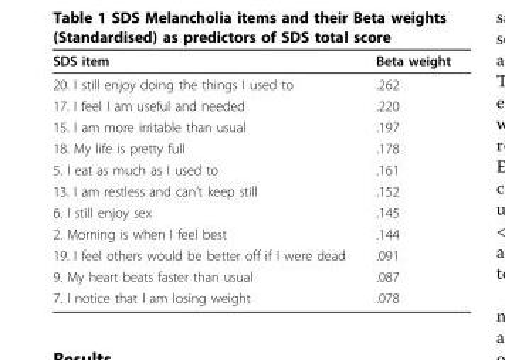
<table><thead><tr><td>SDS item</td><td>Beta weight</td></tr></thead><tbody><tr><td>20. I still enjoy doing the things I used to</td><td>.262</td></tr><tr><td>17. I feel I am useful and needed</td><td>.220</td></tr><tr><td>15. I am more irritable than usual</td><td>.197</td></tr><tr><td>18. My life is pretty full</td><td>.178</td></tr><tr><td>5. I eat as much as I used to</td><td>.161</td></tr><tr><td>13. I am restless and can’t keep still</td><td>.152</td></tr><tr><td>6. I still enjoy sex</td><td>.145</td></tr><tr><td>2. Morning is when I feel best</td><td>.144</td></tr><tr><td>19. I feel others would be better off if I were dead</td><td>.091</td></tr><tr><td>9. My heart beats faster than usual</td><td>.087</td></tr><tr><td>7. I notice that I am losing weight</td><td>.078</td></tr></tbody></table>